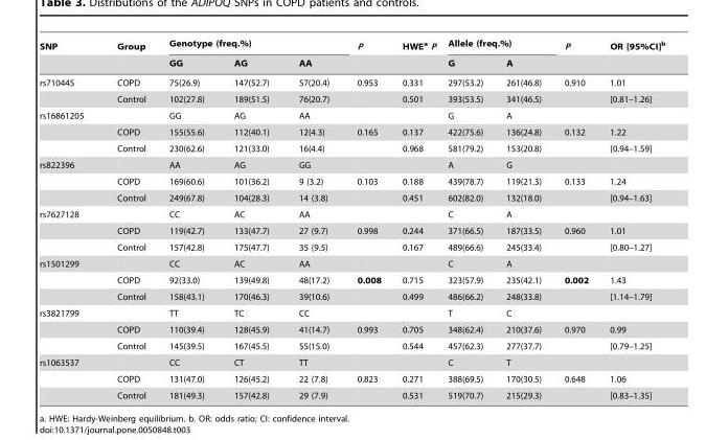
<table><thead><tr><td rowspan="2">SNP</td><td rowspan="2">Group</td><td colspan="3">Genotype (freq.%)</td><td rowspan="2">P</td><td rowspan="2">HWE<sup>a</sup> P</td><td colspan="2">Allele (freq.%)</td><td rowspan="2">P</td><td rowspan="2">OR [95%CI]<sup>b</sup></td></tr><tr><td>GG</td><td>AG</td><td>AA</td><td>G</td><td>A</td></tr></thead><tbody><tr><td rowspan="2">rs710445</td><td>COPD</td><td>75(26.9)</td><td>147(52.7)</td><td>57(20.4)</td><td>0.953</td><td>0.331</td><td>297(53.2)</td><td>261(46.8)</td><td>0.910</td><td>1.01</td></tr><tr><td>Control</td><td>102(27.8)</td><td>189(51.5)</td><td>76(20.7)</td><td></td><td>0.501</td><td>393(53.5)</td><td>341(46.5)</td><td></td><td>[0.81–1.26]</td></tr><tr><td rowspan="3">rs16861205</td><td></td><td>GG</td><td>AG</td><td>AA</td><td></td><td></td><td>G</td><td>A</td><td></td><td></td></tr><tr><td>COPD</td><td>155(55.6)</td><td>112(40.1)</td><td>12(4.3)</td><td>0.165</td><td>0.137</td><td>422(75.6)</td><td>136(24.8)</td><td>0.132</td><td>1.22</td></tr><tr><td>Control</td><td>230(62.6)</td><td>121(33.0)</td><td>16(4.4)</td><td></td><td>0.968</td><td>581(79.2)</td><td>153(20.8)</td><td></td><td>[0.94–1.59]</td></tr><tr><td rowspan="3">rs822396</td><td></td><td>AA</td><td>AG</td><td>GG</td><td></td><td></td><td>A</td><td>G</td><td></td><td></td></tr><tr><td>COPD</td><td>169(60.6)</td><td>101(36.2)</td><td>9 (3.2)</td><td>0.103</td><td>0.188</td><td>439(78.7)</td><td>119(21.3)</td><td>0.133</td><td>1.24</td></tr><tr><td>Control</td><td>249(67.8)</td><td>104(28.3)</td><td>14 (3.8)</td><td></td><td>0.451</td><td>602(82.0)</td><td>132(18.0)</td><td></td><td>[0.94–1.63]</td></tr><tr><td rowspan="3">rs7627128</td><td></td><td>CC</td><td>AC</td><td>AA</td><td></td><td></td><td>C</td><td>A</td><td></td><td></td></tr><tr><td>COPD</td><td>119(42.7)</td><td>133(47.7)</td><td>27 (9.7)</td><td>0.998</td><td>0.244</td><td>371(66.5)</td><td>187(33.5)</td><td>0.960</td><td>1.01</td></tr><tr><td>Control</td><td>157(42.8)</td><td>175(47.7)</td><td>35 (9.5)</td><td></td><td>0.167</td><td>489(66.6)</td><td>245(33.4)</td><td></td><td>[0.80–1.27]</td></tr><tr><td rowspan="3">rs1501299</td><td></td><td>CC</td><td>AC</td><td>AA</td><td></td><td></td><td>C</td><td>A</td><td></td><td></td></tr><tr><td>COPD</td><td>92(33.0)</td><td>139(49.8)</td><td>48(17.2)</td><td>0.008</td><td>0.715</td><td>323(57.9)</td><td>235(42.1)</td><td>0.002</td><td>1.43</td></tr><tr><td>Control</td><td>158(43.1)</td><td>170(46.3)</td><td>39(10.6)</td><td></td><td>0.499</td><td>486(66.2)</td><td>248(33.8)</td><td></td><td>[1.14–1.79]</td></tr><tr><td rowspan="3">rs3821799</td><td></td><td>TT</td><td>TC</td><td>CC</td><td></td><td></td><td>T</td><td>C</td><td></td><td></td></tr><tr><td>COPD</td><td>110(39.4)</td><td>128(45.9)</td><td>41(14.7)</td><td>0.993</td><td>0.705</td><td>348(62.4)</td><td>210(37.6)</td><td>0.970</td><td>0.99</td></tr><tr><td>Control</td><td>145(39.5)</td><td>167(45.5)</td><td>55(15.0)</td><td></td><td>0.544</td><td>457(62.3)</td><td>277(37.7)</td><td></td><td>[0.79–1.25]</td></tr><tr><td rowspan="3">rs1063537</td><td></td><td>CC</td><td>CT</td><td>TT</td><td></td><td></td><td>C</td><td>T</td><td></td><td></td></tr><tr><td>COPD</td><td>131(47.0)</td><td>126(45.2)</td><td>22 (7.8)</td><td>0.823</td><td>0.271</td><td>388(69.5)</td><td>170(30.5)</td><td>0.648</td><td>1.06</td></tr><tr><td>Control</td><td>181(49.3)</td><td>157(42.8)</td><td>29 (7.9)</td><td></td><td>0.531</td><td>519(70.7)</td><td>215(29.3)</td><td></td><td>[0.83–1.35]</td></tr></tbody></table>